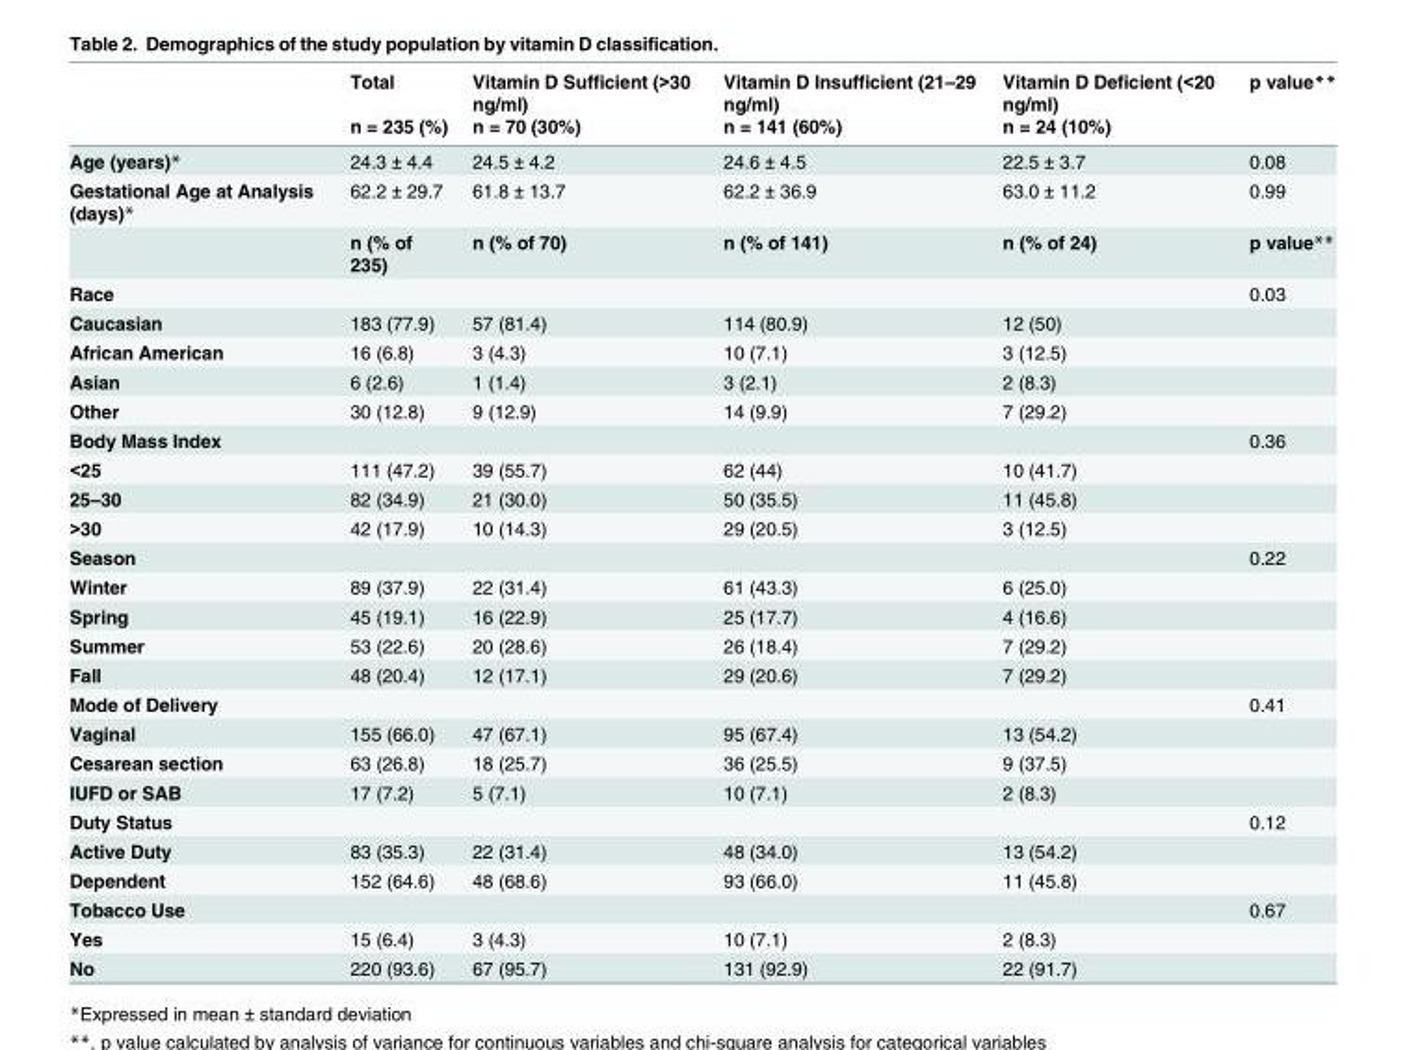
<table><thead><tr><td rowspan="2"></td><td rowspan="2">Total n = 235 (%)</td><td rowspan="2">Vitamin D Sufficient (&gt;30 ng/ml) n = 70 (30%)</td><td rowspan="2">Vitamin D Insufficient (21–29 ng/ml) n = 141 (60%)</td><td rowspan="2">Vitamin D Deficient (&lt;20 ng/ml) n = 24 (10%)</td><td rowspan="2">p value**</td></tr><tr></tr></thead><tbody><tr><td>Age (years)*</td><td>24.3 ± 4.4</td><td>24.5 ± 4.2</td><td>24.6 ± 4.5</td><td>22.5 ± 3.7</td><td>0.08</td></tr><tr><td rowspan="2">Gestational Age at Analysis (days)*</td><td>62.2 ± 29.7</td><td>61.8 ± 13.7</td><td>62.2 ± 36.9</td><td>63.0 ± 11.2</td><td>0.99</td></tr><tr><td>n (% of 235)</td><td>n (% of 70)</td><td>n (% of 141)</td><td>n (% of 24)</td><td>p value**</td></tr><tr><td>Race</td><td></td><td></td><td></td><td></td><td>0.03</td></tr><tr><td>Caucasian</td><td>183 (77.9)</td><td>57 (81.4)</td><td>114 (80.9)</td><td>12 (50)</td><td></td></tr><tr><td>African American</td><td>16 (6.8)</td><td>3 (4.3)</td><td>10 (7.1)</td><td>3 (12.5)</td><td></td></tr><tr><td>Asian</td><td>6 (2.6)</td><td>1 (1.4)</td><td>3 (2.1)</td><td>2 (8.3)</td><td></td></tr><tr><td>Other</td><td>30 (12.8)</td><td>9 (12.9)</td><td>14 (9.9)</td><td>7 (29.2)</td><td></td></tr><tr><td>Body Mass Index</td><td></td><td></td><td></td><td></td><td>0.36</td></tr><tr><td>&lt;25</td><td>111 (47.2)</td><td>39 (55.7)</td><td>62 (44)</td><td>10 (41.7)</td><td></td></tr><tr><td>25–30</td><td>82 (34.9)</td><td>21 (30.0)</td><td>50 (35.5)</td><td>11 (45.8)</td><td></td></tr><tr><td>&gt;30</td><td>42 (17.9)</td><td>10 (14.3)</td><td>29 (20.5)</td><td>3 (12.5)</td><td></td></tr><tr><td>Season</td><td></td><td></td><td></td><td></td><td>0.22</td></tr><tr><td>Winter</td><td>89 (37.9)</td><td>22 (31.4)</td><td>61 (43.3)</td><td>6 (25.0)</td><td></td></tr><tr><td>Spring</td><td>45 (19.1)</td><td>16 (22.9)</td><td>25 (17.7)</td><td>4 (16.6)</td><td></td></tr><tr><td>Summer</td><td>53 (22.6)</td><td>20 (28.6)</td><td>26 (18.4)</td><td>7 (29.2)</td><td></td></tr><tr><td>Fall</td><td>48 (20.4)</td><td>12 (17.1)</td><td>29 (20.6)</td><td>7 (29.2)</td><td></td></tr><tr><td>Mode of Delivery</td><td></td><td></td><td></td><td></td><td>0.41</td></tr><tr><td>Vaginal</td><td>155 (66.0)</td><td>47 (67.1)</td><td>95 (67.4)</td><td>13 (54.2)</td><td></td></tr><tr><td>Cesarean section</td><td>63 (26.8)</td><td>18 (25.7)</td><td>36 (25.5)</td><td>9 (37.5)</td><td></td></tr><tr><td>IUFD or SAB</td><td>17 (7.2)</td><td>5 (7.1)</td><td>10 (7.1)</td><td>2 (8.3)</td><td></td></tr><tr><td>Duty Status</td><td></td><td></td><td></td><td></td><td>0.12</td></tr><tr><td>Active Duty</td><td>83 (35.3)</td><td>22 (31.4)</td><td>48 (34.0)</td><td>13 (54.2)</td><td></td></tr><tr><td>Dependent</td><td>152 (64.6)</td><td>48 (68.6)</td><td>93 (66.0)</td><td>11 (45.8)</td><td></td></tr><tr><td>Tobacco Use</td><td></td><td></td><td></td><td></td><td>0.67</td></tr><tr><td>Yes</td><td>15 (6.4)</td><td>3 (4.3)</td><td>10 (7.1)</td><td>2 (8.3)</td><td></td></tr><tr><td>No</td><td>220 (93.6)</td><td>67 (95.7)</td><td>131 (92.9)</td><td>22 (91.7)</td><td></td></tr></tbody></table>